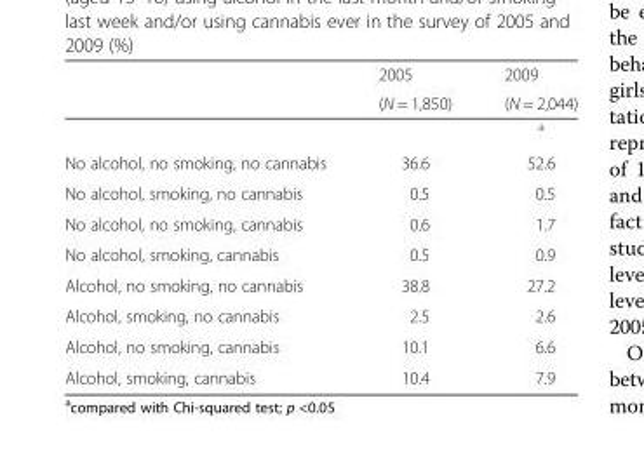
<table><thead><tr><td rowspan="2"></td><td rowspan="2">2005 (N = 1,850)</td><td rowspan="2">2009 (N = 2,044)</td></tr><tr></tr></thead><tbody><tr><td></td><td></td><td><sup>a</sup></td></tr><tr><td>No alcohol, no smoking, no cannabis</td><td>36.6</td><td>52.6</td></tr><tr><td>No alcohol, smoking, no cannabis</td><td>0.5</td><td>0.5</td></tr><tr><td>No alcohol, no smoking, cannabis</td><td>0.6</td><td>1.7</td></tr><tr><td>No alcohol, smoking, cannabis</td><td>0.5</td><td>0.9</td></tr><tr><td>Alcohol, no smoking, no cannabis</td><td>38.8</td><td>27.2</td></tr><tr><td>Alcohol, smoking, no cannabis</td><td>2.5</td><td>2.6</td></tr><tr><td>Alcohol, no smoking, cannabis</td><td>10.1</td><td>6.6</td></tr><tr><td>Alcohol, smoking, cannabis</td><td>10.4</td><td>7.9</td></tr></tbody></table>